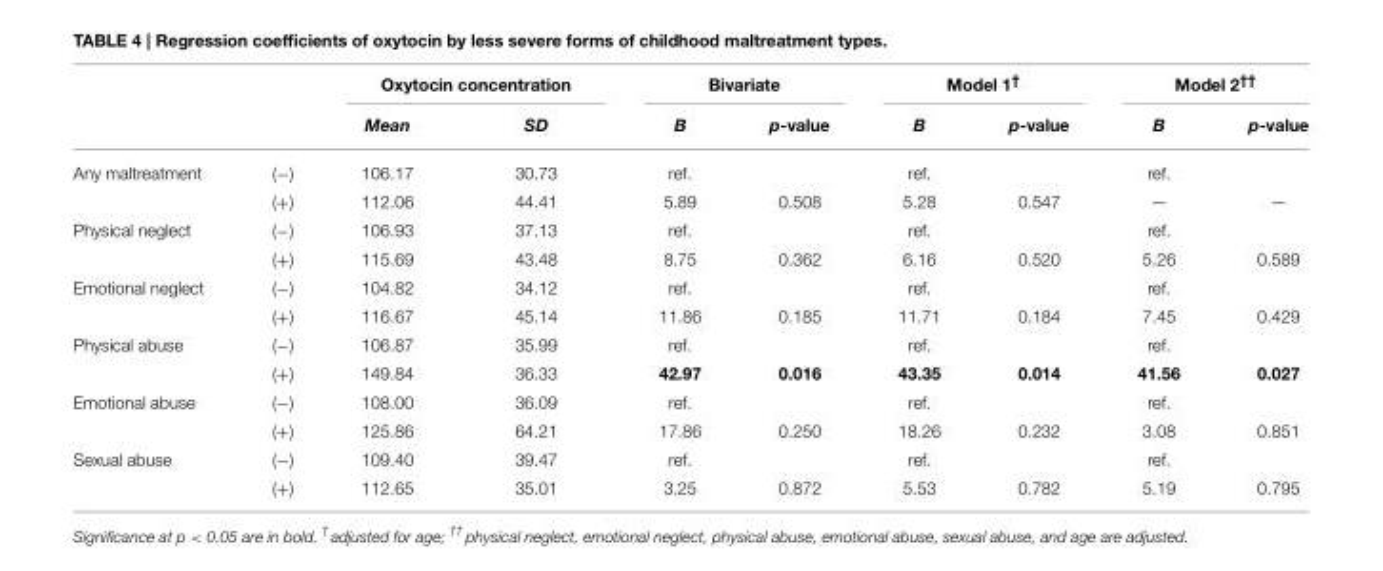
<table><thead><tr><td rowspan="2"></td><td rowspan="2"></td><td colspan="2">Oxytocin concentration</td><td colspan="2">Bivariate</td><td colspan="2">Model 1<sup>†</sup></td><td colspan="2">Model 2<sup>††</sup></td></tr><tr><td>Mean</td><td>SD</td><td>B</td><td>p-value</td><td>B</td><td>p-value</td><td>B</td><td>p-value</td></tr></thead><tbody><tr><td rowspan="2">Any maltreatment</td><td>(−)</td><td>106.17</td><td>30.73</td><td>ref.</td><td></td><td>ref.</td><td></td><td>ref.</td><td></td></tr><tr><td>(+)</td><td>112.06</td><td>44.41</td><td>5.89</td><td>0.508</td><td>5.28</td><td>0.547</td><td>—</td><td>—</td></tr><tr><td rowspan="2">Physical neglect</td><td>(−)</td><td>106.93</td><td>37.13</td><td>ref.</td><td></td><td>ref.</td><td></td><td>ref.</td><td></td></tr><tr><td>(+)</td><td>115.69</td><td>43.48</td><td>8.75</td><td>0.362</td><td>6.16</td><td>0.520</td><td>5.26</td><td>0.589</td></tr><tr><td rowspan="2">Emotional neglect</td><td>(−)</td><td>104.82</td><td>34.12</td><td>ref.</td><td></td><td>ref.</td><td></td><td>ref.</td><td></td></tr><tr><td>(+)</td><td>116.67</td><td>45.14</td><td>11.86</td><td>0.185</td><td>11.71</td><td>0.184</td><td>7.45</td><td>0.429</td></tr><tr><td rowspan="2">Physical abuse</td><td>(−)</td><td>106.87</td><td>35.99</td><td>ref.</td><td></td><td>ref.</td><td></td><td>ref.</td><td></td></tr><tr><td>(+)</td><td>149.84</td><td>36.33</td><td>42.97</td><td>0.016</td><td>43.35</td><td>0.014</td><td>41.56</td><td>0.027</td></tr><tr><td rowspan="2">Emotional abuse</td><td>(−)</td><td>108.00</td><td>36.09</td><td>ref.</td><td></td><td>ref.</td><td></td><td>ref.</td><td></td></tr><tr><td>(+)</td><td>125.86</td><td>64.21</td><td>17.86</td><td>0.250</td><td>18.26</td><td>0.232</td><td>3.08</td><td>0.851</td></tr><tr><td rowspan="2">Sexual abuse</td><td>(−)</td><td>109.40</td><td>39.47</td><td>ref.</td><td></td><td>ref.</td><td></td><td>ref.</td><td></td></tr><tr><td>(+)</td><td>112.65</td><td>35.01</td><td>3.25</td><td>0.872</td><td>5.53</td><td>0.782</td><td>5.19</td><td>0.795</td></tr></tbody></table>